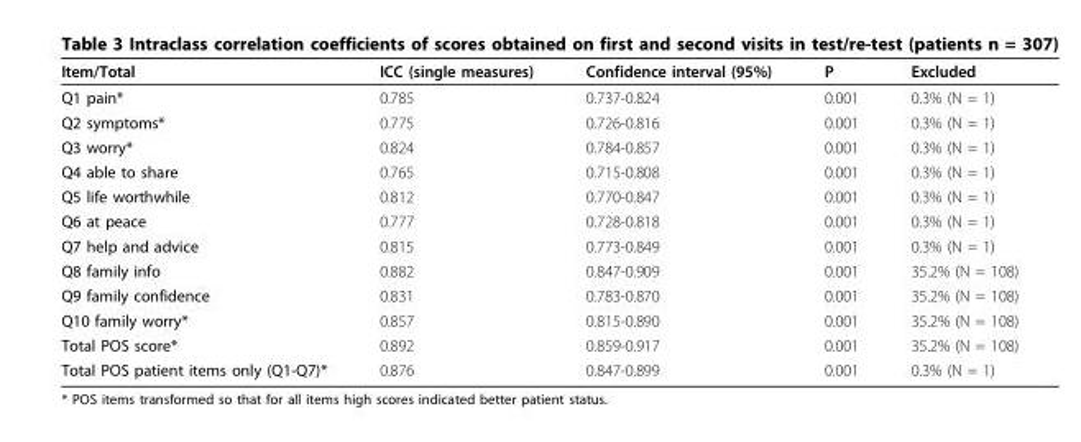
<table><thead><tr><td>Item/Total</td><td>ICC (single measures)</td><td>Confidence interval (95%)</td><td>P</td><td>Excluded</td></tr></thead><tbody><tr><td>Q1 pain*</td><td>0.785</td><td>0.737-0.824</td><td>0.001</td><td>0.3% (N = 1)</td></tr><tr><td>Q2 symptoms*</td><td>0.775</td><td>0.726-0.816</td><td>0.001</td><td>0.3% (N = 1)</td></tr><tr><td>Q3 worry*</td><td>0.824</td><td>0.784-0.857</td><td>0.001</td><td>0.3% (N = 1)</td></tr><tr><td>Q4 able to share</td><td>0.765</td><td>0.715-0.808</td><td>0.001</td><td>0.3% (N = 1)</td></tr><tr><td>Q5 life worthwhile</td><td>0.812</td><td>0.770-0.847</td><td>0.001</td><td>0.3% (N = 1)</td></tr><tr><td>Q6 at peace</td><td>0.777</td><td>0.728-0.818</td><td>0.001</td><td>0.3% (N = 1)</td></tr><tr><td>Q7 help and advice</td><td>0.815</td><td>0.773-0.849</td><td>0.001</td><td>0.3% (N = 1)</td></tr><tr><td>Q8 family info</td><td>0.882</td><td>0.847-0.909</td><td>0.001</td><td>35.2% (N = 108)</td></tr><tr><td>Q9 family confidence</td><td>0.831</td><td>0.783-0.870</td><td>0.001</td><td>35.2% (N = 108)</td></tr><tr><td>Q10 family worry*</td><td>0.857</td><td>0.815-0.890</td><td>0.001</td><td>35.2% (N = 108)</td></tr><tr><td>Total POS score*</td><td>0.892</td><td>0.859-0.917</td><td>0.001</td><td>35.2% (N = 108)</td></tr><tr><td>Total POS patient items only (Q1-Q7)*</td><td>0.876</td><td>0.847-0.899</td><td>0.001</td><td>0.3% (N = 1)</td></tr></tbody></table>